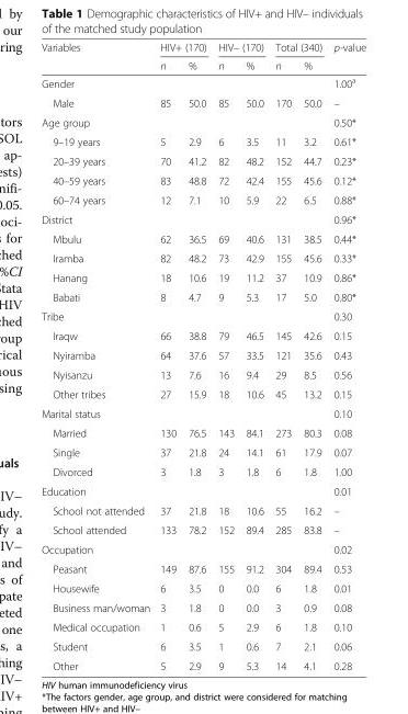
<table><thead><tr><td rowspan="2">Variables</td><td colspan="2">HIV+ (170)</td><td colspan="2">HIV– (170)</td><td colspan="2">Total (340)</td><td rowspan="2">p-value</td></tr><tr><td>n</td><td>%</td><td>n</td><td>%</td><td>n</td><td>%</td></tr></thead><tbody><tr><td>Gender</td><td></td><td></td><td></td><td></td><td></td><td></td><td>1.00<sup>a</sup></td></tr><tr><td>Male</td><td>85</td><td>50.0</td><td>85</td><td>50.0</td><td>170</td><td>50.0</td><td>–</td></tr><tr><td>Age group</td><td></td><td></td><td></td><td></td><td></td><td></td><td>0.50*</td></tr><tr><td>9–19 years</td><td>5</td><td>2.9</td><td>6</td><td>3.5</td><td>11</td><td>3.2</td><td>0.61*</td></tr><tr><td>20–39 years</td><td>70</td><td>41.2</td><td>82</td><td>48.2</td><td>152</td><td>44.7</td><td>0.23*</td></tr><tr><td>40–59 years</td><td>83</td><td>48.8</td><td>72</td><td>42.4</td><td>155</td><td>45.6</td><td>0.12*</td></tr><tr><td>60–74 years</td><td>12</td><td>7.1</td><td>10</td><td>5.9</td><td>22</td><td>6.5</td><td>0.88*</td></tr><tr><td>District</td><td></td><td></td><td></td><td></td><td></td><td></td><td>0.96*</td></tr><tr><td>Mbulu</td><td>62</td><td>36.5</td><td>69</td><td>40.6</td><td>131</td><td>38.5</td><td>0.44*</td></tr><tr><td>Iramba</td><td>82</td><td>48.2</td><td>73</td><td>42.9</td><td>155</td><td>45.6</td><td>0.33*</td></tr><tr><td>Hanang</td><td>18</td><td>10.6</td><td>19</td><td>11.2</td><td>37</td><td>10.9</td><td>0.86*</td></tr><tr><td>Babati</td><td>8</td><td>4.7</td><td>9</td><td>5.3</td><td>17</td><td>5.0</td><td>0.80*</td></tr><tr><td>Tribe</td><td></td><td></td><td></td><td></td><td></td><td></td><td>0.30</td></tr><tr><td>Iraqw</td><td>66</td><td>38.8</td><td>79</td><td>46.5</td><td>145</td><td>42.6</td><td>0.15</td></tr><tr><td>Nyiramba</td><td>64</td><td>37.6</td><td>57</td><td>33.5</td><td>121</td><td>35.6</td><td>0.43</td></tr><tr><td>Nyisanzu</td><td>13</td><td>7.6</td><td>16</td><td>9.4</td><td>29</td><td>8.5</td><td>0.56</td></tr><tr><td>Other tribes</td><td>27</td><td>15.9</td><td>18</td><td>10.6</td><td>45</td><td>13.2</td><td>0.15</td></tr><tr><td>Marital status</td><td></td><td></td><td></td><td></td><td></td><td></td><td>0.10</td></tr><tr><td>Married</td><td>130</td><td>76.5</td><td>143</td><td>84.1</td><td>273</td><td>80.3</td><td>0.08</td></tr><tr><td>Single</td><td>37</td><td>21.8</td><td>24</td><td>14.1</td><td>61</td><td>17.9</td><td>0.07</td></tr><tr><td>Divorced</td><td>3</td><td>1.8</td><td>3</td><td>1.8</td><td>6</td><td>1.8</td><td>1.00</td></tr><tr><td>Education</td><td></td><td></td><td></td><td></td><td></td><td></td><td>0.01</td></tr><tr><td>School not attended</td><td>37</td><td>21.8</td><td>18</td><td>10.6</td><td>55</td><td>16.2</td><td>–</td></tr><tr><td>School attended</td><td>133</td><td>78.2</td><td>152</td><td>89.4</td><td>285</td><td>83.8</td><td>–</td></tr><tr><td>Occupation</td><td></td><td></td><td></td><td></td><td></td><td></td><td>0.02</td></tr><tr><td>Peasant</td><td>149</td><td>87.6</td><td>155</td><td>91.2</td><td>304</td><td>89.4</td><td>0.53</td></tr><tr><td>Housewife</td><td>6</td><td>3.5</td><td>0</td><td>0.0</td><td>6</td><td>1.8</td><td>0.01</td></tr><tr><td>Business man/woman</td><td>3</td><td>1.8</td><td>0</td><td>0.0</td><td>3</td><td>0.9</td><td>0.08</td></tr><tr><td>Medical occupation</td><td>1</td><td>0.6</td><td>5</td><td>2.9</td><td>6</td><td>1.8</td><td>0.10</td></tr><tr><td>Student</td><td>6</td><td>3.5</td><td>1</td><td>0.6</td><td>7</td><td>2.1</td><td>0.06</td></tr><tr><td>Other</td><td>5</td><td>2.9</td><td>9</td><td>5.3</td><td>14</td><td>4.1</td><td>0.28</td></tr></tbody></table>